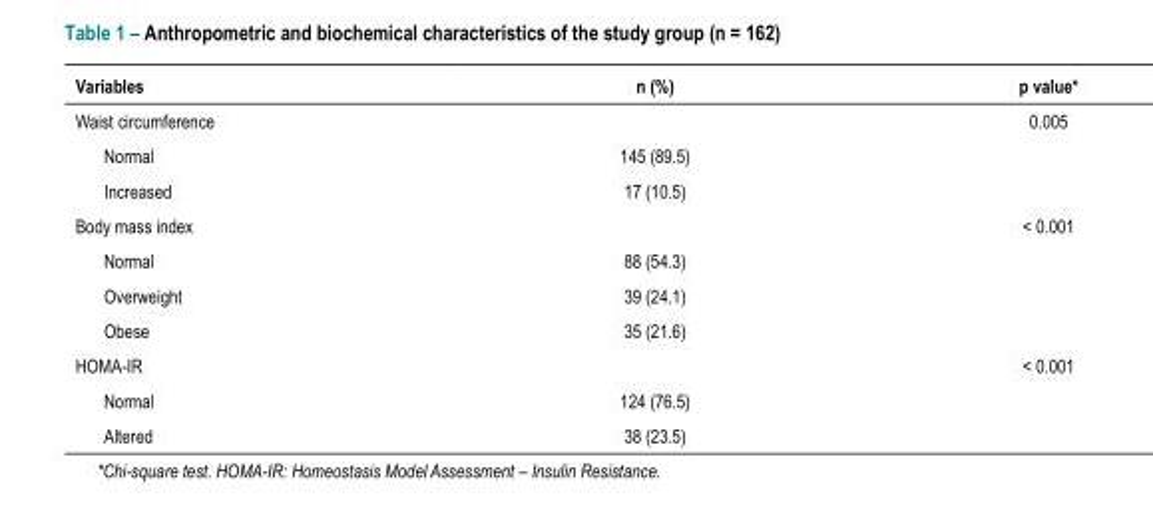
<table><thead><tr><td>Variables</td><td>n (%)</td><td>p value*</td></tr></thead><tbody><tr><td>Waist circumference</td><td></td><td>0.005</td></tr><tr><td>Normal</td><td>145 (89.5)</td><td></td></tr><tr><td>Increased</td><td>17 (10.5)</td><td></td></tr><tr><td>Body mass index</td><td></td><td>&lt; 0.001</td></tr><tr><td>Normal</td><td>88 (54.3)</td><td></td></tr><tr><td>Overweight</td><td>39 (24.1)</td><td></td></tr><tr><td>Obese</td><td>35 (21.6)</td><td></td></tr><tr><td>HOMA-IR</td><td></td><td>&lt; 0.001</td></tr><tr><td>Normal</td><td>124 (76.5)</td><td></td></tr><tr><td>Altered</td><td>38 (23.5)</td><td></td></tr></tbody></table>